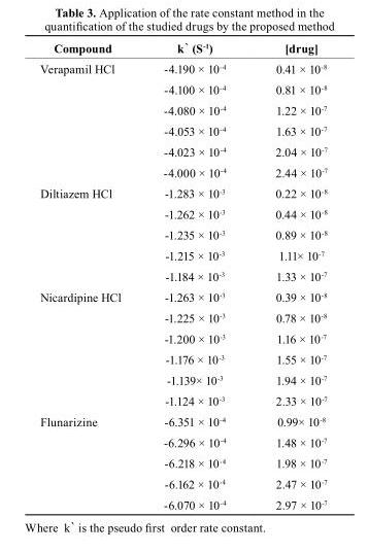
<table><thead><tr><td>Compound</td><td>k` (S<sup>-1</sup>)</td><td>[drug]</td></tr></thead><tbody><tr><td rowspan="6">Verapamil HCl</td><td>-4.190 × 10<sup>-4</sup></td><td>0.41 × 10<sup>-8</sup></td></tr><tr><td>-4.100 × 10<sup>-4</sup></td><td>0.81 × 10<sup>-8</sup></td></tr><tr><td>-4.080 × 10<sup>-4</sup></td><td>1.22 × 10<sup>-7</sup></td></tr><tr><td>-4.053 × 10<sup>-4</sup></td><td>1.63 × 10<sup>-7</sup></td></tr><tr><td>-4.023 × 10<sup>-4</sup></td><td>2.04 × 10<sup>-7</sup></td></tr><tr><td>-4.000 × 10<sup>-4</sup></td><td>2.44 × 10<sup>-7</sup></td></tr><tr><td rowspan="5">Diltiazem HCl</td><td>-1.283 × 10<sup>-3</sup></td><td>0.22 × 10<sup>-8</sup></td></tr><tr><td>-1.262 × 10<sup>-3</sup></td><td>0.44 × 10<sup>-8</sup></td></tr><tr><td>-1.235 × 10<sup>-3</sup></td><td>0.89 × 10<sup>-8</sup></td></tr><tr><td>-1.215 × 10<sup>-3</sup></td><td>1.11× 10<sup>-7</sup></td></tr><tr><td>-1.184 × 10<sup>-3</sup></td><td>1.33 × 10<sup>-7</sup></td></tr><tr><td rowspan="6">Nicardipine HCl</td><td>-1.263 × 10<sup>-3</sup></td><td>0.39 × 10<sup>-8</sup></td></tr><tr><td>-1.225 × 10<sup>-3</sup></td><td>0.78 × 10<sup>-8</sup></td></tr><tr><td>-1.200 × 10<sup>-3</sup></td><td>1.16 × 10<sup>-7</sup></td></tr><tr><td>-1.176 × 10<sup>-3</sup></td><td>1.55 × 10<sup>-7</sup></td></tr><tr><td>-1.139× 10<sup>-3</sup></td><td>1.94 × 10<sup>-7</sup></td></tr><tr><td>-1.124 × 10<sup>-3</sup></td><td>2.33 × 10<sup>-7</sup></td></tr><tr><td rowspan="5">Flunarizine</td><td>-6.351 × 10<sup>-4</sup></td><td>0.99× 10<sup>-8</sup></td></tr><tr><td>-6.296 × 10<sup>-4</sup></td><td>1.48 × 10<sup>-7</sup></td></tr><tr><td>-6.218 × 10<sup>-4</sup></td><td>1.98 × 10<sup>-7</sup></td></tr><tr><td>-6.162 × 10<sup>-4</sup></td><td>2.47 × 10<sup>-7</sup></td></tr><tr><td>-6.070 × 10<sup>-4</sup></td><td>2.97 × 10<sup>-7</sup></td></tr></tbody></table>